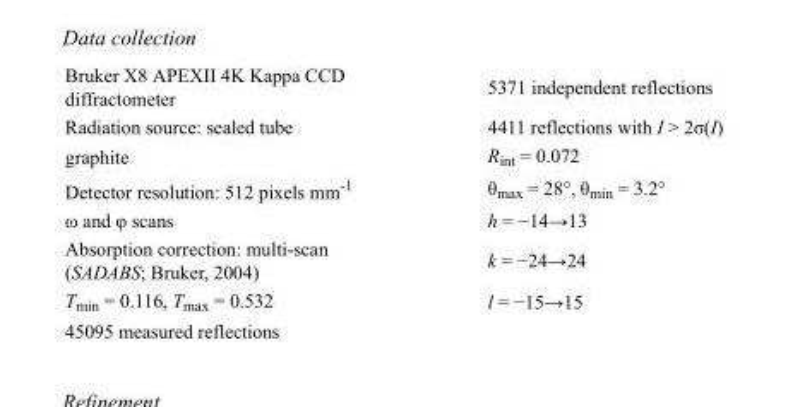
<table><tbody><tr><td>Bruker X8 APEXII 4K Kappa CCD diffractometer</td><td>5371 independent reflections</td></tr><tr><td>Radiation source: sealed tube</td><td>4411 reflections with I &gt; 2σ(I)</td></tr><tr><td>graphite</td><td>R<sub>int</sub> = 0.072</td></tr><tr><td>Detector resolution: 512 pixels mm<sup>-1</sup></td><td>θ<sub>max</sub> = 28°, θ<sub>min</sub> = 3.2°</td></tr><tr><td>ω and φ scans</td><td>h = −14→13</td></tr><tr><td>Absorption correction: multi-scan (SADABS; Bruker, 2004)</td><td>k = −24→24</td></tr><tr><td>T<sub>min</sub> = 0.116, T<sub>max</sub> = 0.532</td><td>l = −15→15</td></tr><tr><td>45095 measured reflections</td><td></td></tr></tbody></table>